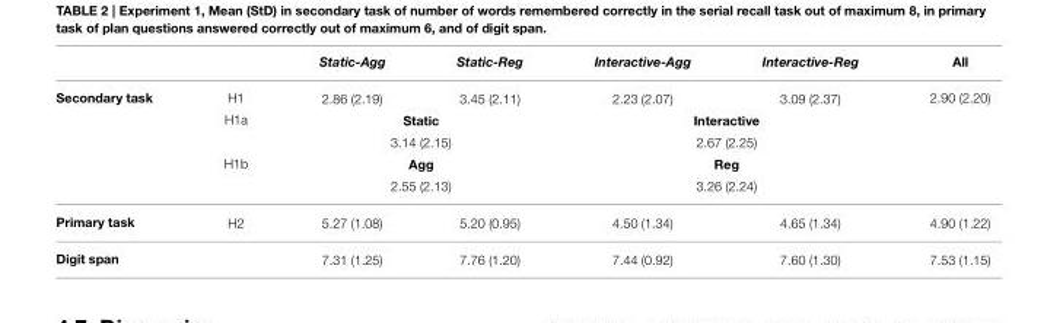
<table><thead><tr><td></td><td></td><td>Static-Agg</td><td>Static-Reg</td><td>Interactive-Agg</td><td>Interactive-Reg</td><td>All</td></tr></thead><tbody><tr><td rowspan="5">Secondary task</td><td>H1</td><td>2.86 (2.19)</td><td>3.45 (2.11)</td><td>2.23 (2.07)</td><td>3.09 (2.37)</td><td>2.90 (2.20)</td></tr><tr><td>H1a</td><td colspan="2">Static</td><td colspan="2">Interactive</td><td></td></tr><tr><td></td><td colspan="2">3.14 (2.15)</td><td colspan="2">2.67 (2.25)</td><td></td></tr><tr><td>H1b</td><td colspan="2">Agg</td><td colspan="2">Reg</td><td></td></tr><tr><td></td><td colspan="2">2.55 (2.13)</td><td colspan="2">3.26 (2.24)</td><td></td></tr><tr><td>Primary task</td><td>H2</td><td>5.27 (1.08)</td><td>5.20 (0.95)</td><td>4.50 (1.34)</td><td>4.65 (1.34)</td><td>4.90 (1.22)</td></tr><tr><td>Digit span</td><td></td><td>7.31 (1.25)</td><td>7.76 (1.20)</td><td>7.44 (0.92)</td><td>7.60 (1.30)</td><td>7.53 (1.15)</td></tr></tbody></table>